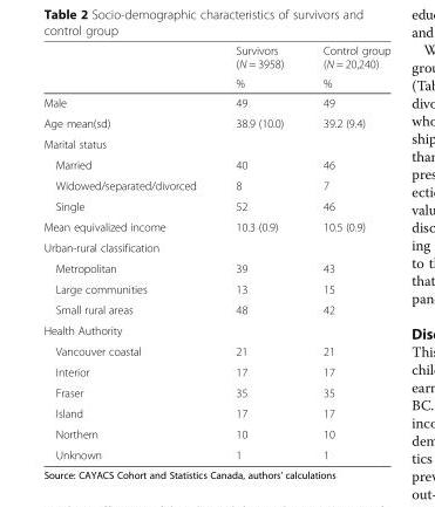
<table><thead><tr><td rowspan="2"></td><td rowspan="2">Survivors (N = 3958) %</td><td rowspan="2">Control group (N = 20,240) %</td></tr><tr></tr></thead><tbody><tr><td>Male</td><td>49</td><td>49</td></tr><tr><td>Age mean(sd)</td><td>38.9 (10.0)</td><td>39.2 (9.4)</td></tr><tr><td colspan="3">Marital status</td></tr><tr><td>Married</td><td>40</td><td>46</td></tr><tr><td>Widowed/separated/divorced</td><td>8</td><td>7</td></tr><tr><td>Single</td><td>52</td><td>46</td></tr><tr><td>Mean equivalized income</td><td>10.3 (0.9)</td><td>10.5 (0.9)</td></tr><tr><td colspan="3">Urban-rural classification</td></tr><tr><td>Metropolitan</td><td>39</td><td>43</td></tr><tr><td>Large communities</td><td>13</td><td>15</td></tr><tr><td>Small rural areas</td><td>48</td><td>42</td></tr><tr><td colspan="3">Health Authority</td></tr><tr><td>Vancouver coastal</td><td>21</td><td>21</td></tr><tr><td>Interior</td><td>17</td><td>17</td></tr><tr><td>Fraser</td><td>35</td><td>35</td></tr><tr><td>Island</td><td>17</td><td>17</td></tr><tr><td>Northern</td><td>10</td><td>10</td></tr><tr><td>Unknown</td><td>1</td><td>1</td></tr></tbody></table>